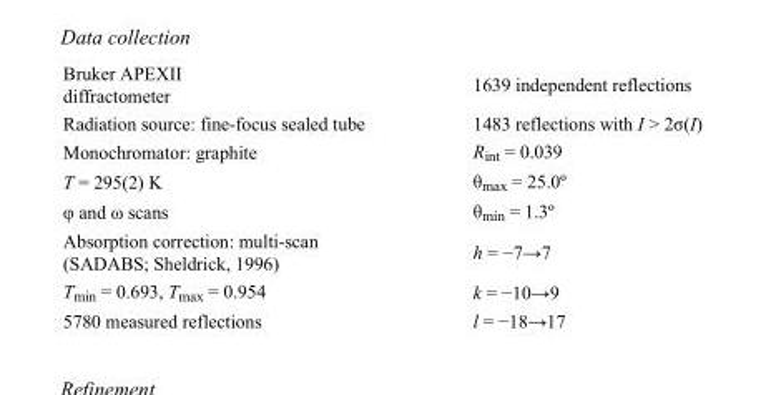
<table><tbody><tr><td>Bruker APEXII diffractometer</td><td>1639 independent reflections</td></tr><tr><td>Radiation source: fine-focus sealed tube</td><td>1483 reflections with I &gt; 2σ(I)</td></tr><tr><td>Monochromator: graphite</td><td>R<sub>int</sub> = 0.039</td></tr><tr><td>T = 295(2) K</td><td>θ<sub>max</sub> = 25.0º</td></tr><tr><td>φ and ω scans</td><td>θ<sub>min</sub> = 1.3º</td></tr><tr><td>Absorption correction: multi-scan (SADABS; Sheldrick, 1996)</td><td>h = −7→7</td></tr><tr><td>T<sub>min</sub> = 0.693, T<sub>max</sub> = 0.954</td><td>k = −10→9</td></tr><tr><td>5780 measured reflections</td><td>l = −18→17</td></tr></tbody></table>